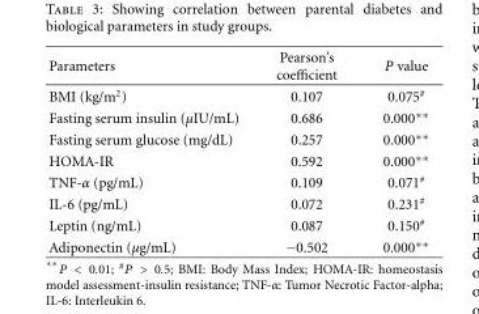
<table><thead><tr><td>Parameters</td><td>Pearson’s coefficient</td><td>P value</td></tr></thead><tbody><tr><td>BMI (kg/m<sup>2</sup>)</td><td>0.107</td><td>0.075<sup>#</sup></td></tr><tr><td>Fasting serum insulin (μIU/mL)</td><td>0.686</td><td>0.000∗∗</td></tr><tr><td>Fasting serum glucose (mg/dL)</td><td>0.257</td><td>0.000∗∗</td></tr><tr><td>HOMA-IR</td><td>0.592</td><td>0.000∗∗</td></tr><tr><td>TNF-α (pg/mL)</td><td>0.109</td><td>0.071<sup>#</sup></td></tr><tr><td>IL-6 (pg/mL)</td><td>0.072</td><td>0.231<sup>#</sup></td></tr><tr><td>Leptin (ng/mL)</td><td>0.087</td><td>0.150<sup>#</sup></td></tr><tr><td>Adiponectin (μg/mL)</td><td>−0.502</td><td>0.000∗∗</td></tr></tbody></table>